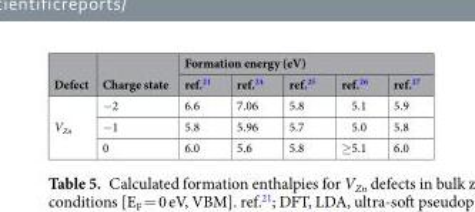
<table><thead><tr><td rowspan="2">Defect</td><td rowspan="2">Charge state</td><td colspan="5">Formation energy (eV)</td></tr><tr><td>ref.<sup>21</sup></td><td>ref.<sup>24</sup></td><td>ref.<sup>25</sup></td><td>ref.<sup>26</sup></td><td>ref.<sup>27</sup></td></tr></thead><tbody><tr><td rowspan="3">V<sub>Zn</sub></td><td>−2</td><td>6.6</td><td>7.06</td><td>5.8</td><td>5.1</td><td>5.9</td></tr><tr><td>−1</td><td>5.8</td><td>5.96</td><td>5.7</td><td>5.0</td><td>5.8</td></tr><tr><td>0</td><td>6.0</td><td>5.6</td><td>5.8</td><td>≥5.1</td><td>6.0</td></tr></tbody></table>